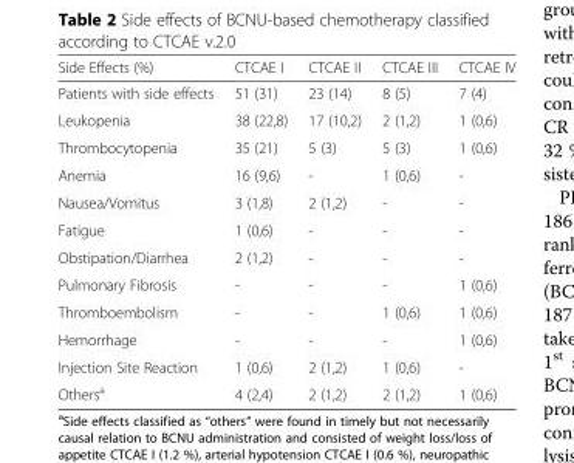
<table><thead><tr><td>Side Effects (%)</td><td>CTCAE I</td><td>CTCAE II</td><td>CTCAE III</td><td>CTCAE IV</td></tr></thead><tbody><tr><td>Patients with side effects</td><td>51 (31)</td><td>23 (14)</td><td>8 (5)</td><td>7 (4)</td></tr><tr><td>Leukopenia</td><td>38 (22,8)</td><td>17 (10,2)</td><td>2 (1,2)</td><td>1 (0,6)</td></tr><tr><td>Thrombocytopenia</td><td>35 (21)</td><td>5 (3)</td><td>5 (3)</td><td>1 (0,6)</td></tr><tr><td>Anemia</td><td>16 (9,6)</td><td>-</td><td>1 (0,6)</td><td>-</td></tr><tr><td>Nausea/Vomitus</td><td>3 (1,8)</td><td>2 (1,2)</td><td>-</td><td>-</td></tr><tr><td>Fatigue</td><td>1 (0,6)</td><td>-</td><td>-</td><td>-</td></tr><tr><td>Obstipation/Diarrhea</td><td>2 (1,2)</td><td>-</td><td>-</td><td>-</td></tr><tr><td>Pulmonary Fibrosis</td><td>-</td><td>-</td><td>-</td><td>1 (0,6)</td></tr><tr><td>Thromboembolism</td><td>-</td><td>-</td><td>1 (0,6)</td><td>1 (0,6)</td></tr><tr><td>Hemorrhage</td><td>-</td><td>-</td><td>-</td><td>1 (0,6)</td></tr><tr><td>Injection Site Reaction</td><td>1 (0,6)</td><td>2 (1,2)</td><td>1 (0,6)</td><td>-</td></tr><tr><td>Others<sup>a</sup></td><td>4 (2,4)</td><td>2 (1,2)</td><td>2 (1,2)</td><td>1 (0,6)</td></tr></tbody></table>